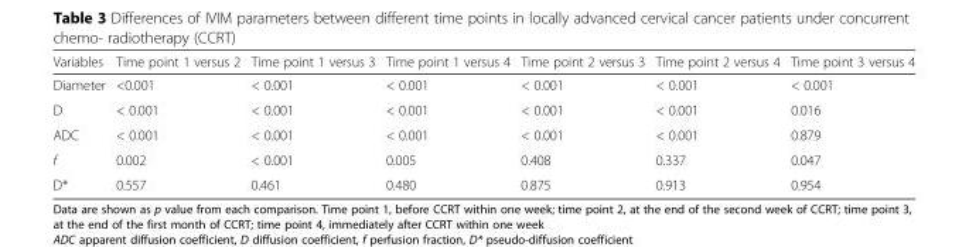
<table><thead><tr><td>Variables</td><td>Time point 1 versus 2</td><td>Time point 1 versus 3</td><td>Time point 1 versus 4</td><td>Time point 2 versus 3</td><td>Time point 2 versus 4</td><td>Time point 3 versus 4</td></tr></thead><tbody><tr><td>Diameter</td><td>&lt;0.001</td><td>&lt; 0.001</td><td>&lt; 0.001</td><td>&lt; 0.001</td><td>&lt; 0.001</td><td>&lt; 0.001</td></tr><tr><td>D</td><td>&lt; 0.001</td><td>&lt; 0.001</td><td>&lt; 0.001</td><td>&lt; 0.001</td><td>&lt; 0.001</td><td>0.016</td></tr><tr><td>ADC</td><td>&lt; 0.001</td><td>&lt; 0.001</td><td>&lt; 0.001</td><td>&lt; 0.001</td><td>&lt; 0.001</td><td>0.879</td></tr><tr><td>f</td><td>0.002</td><td>&lt; 0.001</td><td>0.005</td><td>0.408</td><td>0.337</td><td>0.047</td></tr><tr><td>D*</td><td>0.557</td><td>0.461</td><td>0.480</td><td>0.875</td><td>0.913</td><td>0.954</td></tr></tbody></table>